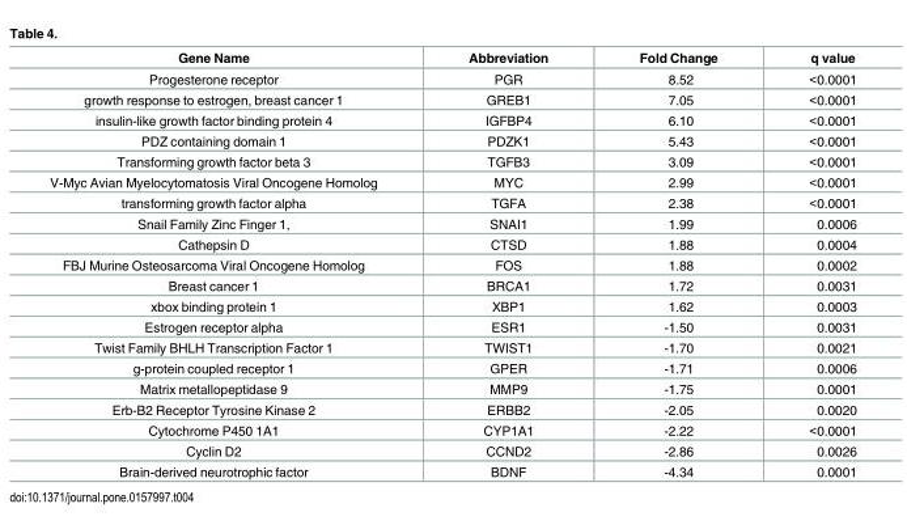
<table><thead><tr><td>Gene Name</td><td>Abbreviation</td><td>Fold Change</td><td>q value</td></tr></thead><tbody><tr><td>Progesterone receptor</td><td>PGR</td><td>8.52</td><td>&lt;0.0001</td></tr><tr><td>growth response to estrogen, breast cancer 1</td><td>GREB1</td><td>7.05</td><td>&lt;0.0001</td></tr><tr><td>insulin-like growth factor binding protein 4</td><td>IGFBP4</td><td>6.10</td><td>&lt;0.0001</td></tr><tr><td>PDZ containing domain 1</td><td>PDZK1</td><td>5.43</td><td>&lt;0.0001</td></tr><tr><td>Transforming growth factor beta 3</td><td>TGFB3</td><td>3.09</td><td>&lt;0.0001</td></tr><tr><td>V-Myc Avian Myelocytomatosis Viral Oncogene Homolog</td><td>MYC</td><td>2.99</td><td>&lt;0.0001</td></tr><tr><td>transforming growth factor alpha</td><td>TGFA</td><td>2.38</td><td>&lt;0.0001</td></tr><tr><td>Snail Family Zinc Finger 1,</td><td>SNAI1</td><td>1.99</td><td>0.0006</td></tr><tr><td>Cathepsin D</td><td>CTSD</td><td>1.88</td><td>0.0004</td></tr><tr><td>FBJ Murine Osteosarcoma Viral Oncogene Homolog</td><td>FOS</td><td>1.88</td><td>0.0002</td></tr><tr><td>Breast cancer 1</td><td>BRCA1</td><td>1.72</td><td>0.0031</td></tr><tr><td>xbox binding protein 1</td><td>XBP1</td><td>1.62</td><td>0.0003</td></tr><tr><td>Estrogen receptor alpha</td><td>ESR1</td><td>-1.50</td><td>0.0031</td></tr><tr><td>Twist Family BHLH Transcription Factor 1</td><td>TWIST1</td><td>-1.70</td><td>0.0021</td></tr><tr><td>g-protein coupled receptor 1</td><td>GPER</td><td>-1.71</td><td>0.0006</td></tr><tr><td>Matrix metallopeptidase 9</td><td>MMP9</td><td>-1.75</td><td>0.0001</td></tr><tr><td>Erb-B2 Receptor Tyrosine Kinase 2</td><td>ERBB2</td><td>-2.05</td><td>0.0020</td></tr><tr><td>Cytochrome P450 1A1</td><td>CYP1A1</td><td>-2.22</td><td>&lt;0.0001</td></tr><tr><td>Cyclin D2</td><td>CCND2</td><td>-2.86</td><td>0.0026</td></tr><tr><td>Brain-derived neurotrophic factor</td><td>BDNF</td><td>-4.34</td><td>0.0001</td></tr></tbody></table>